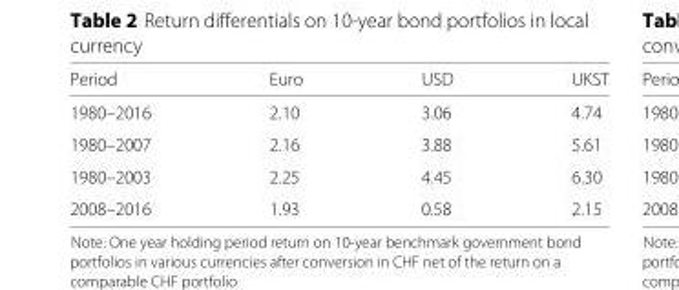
<table><thead><tr><td>Period</td><td>Euro</td><td>USD</td><td>UKST</td></tr></thead><tbody><tr><td>1980–2016</td><td>2.10</td><td>3.06</td><td>4.74</td></tr><tr><td>1980–2007</td><td>2.16</td><td>3.88</td><td>5.61</td></tr><tr><td>1980–2003</td><td>2.25</td><td>4.45</td><td>6.30</td></tr><tr><td>2008–2016</td><td>1.93</td><td>0.58</td><td>2.15</td></tr></tbody></table>